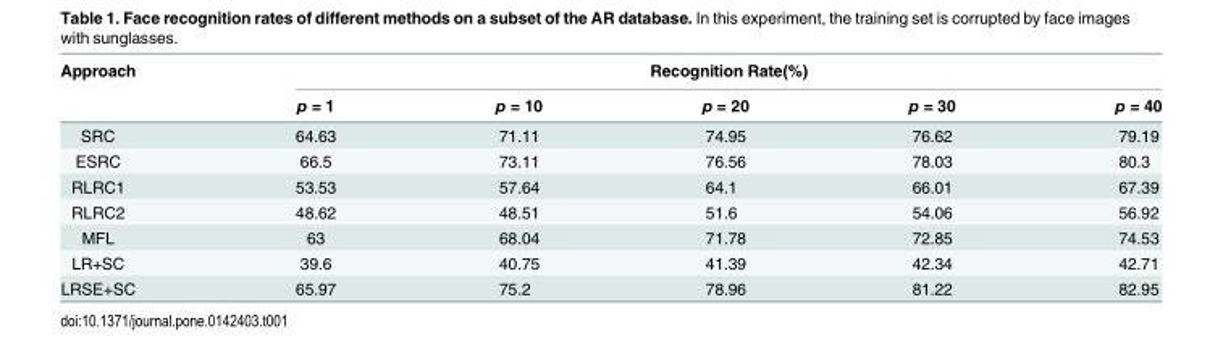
<table><thead><tr><td rowspan="2">Approach</td><td colspan="5">Recognition Rate(%)</td></tr><tr><td>p = 1</td><td>p = 10</td><td>p = 20</td><td>p = 30</td><td>p = 40</td></tr></thead><tbody><tr><td>SRC</td><td>64.63</td><td>71.11</td><td>74.95</td><td>76.62</td><td>79.19</td></tr><tr><td>ESRC</td><td>66.5</td><td>73.11</td><td>76.56</td><td>78.03</td><td>80.3</td></tr><tr><td>RLRC1</td><td>53.53</td><td>57.64</td><td>64.1</td><td>66.01</td><td>67.39</td></tr><tr><td>RLRC2</td><td>48.62</td><td>48.51</td><td>51.6</td><td>54.06</td><td>56.92</td></tr><tr><td>MFL</td><td>63</td><td>68.04</td><td>71.78</td><td>72.85</td><td>74.53</td></tr><tr><td>LR+SC</td><td>39.6</td><td>40.75</td><td>41.39</td><td>42.34</td><td>42.71</td></tr><tr><td>LRSE+SC</td><td>65.97</td><td>75.2</td><td>78.96</td><td>81.22</td><td>82.95</td></tr></tbody></table>